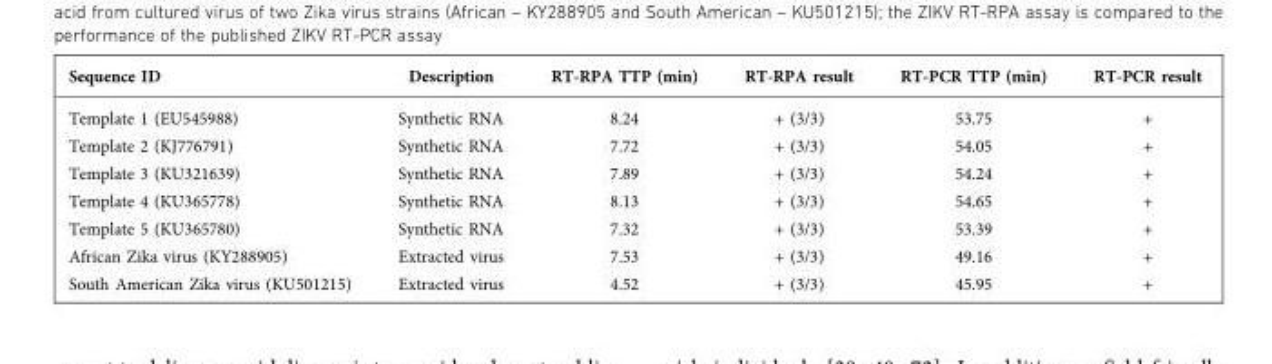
<table><thead><tr><td>Sequence ID</td><td>Description</td><td>RT-RPA TTP (min)</td><td>RT-RPA result</td><td>RT-PCR TTP (min)</td><td>RT-PCR result</td></tr></thead><tbody><tr><td>Template 1 (EU545988)</td><td>Synthetic RNA</td><td>8.24</td><td>+ (3/3)</td><td>53.75</td><td>+</td></tr><tr><td>Template 2 (KJ776791)</td><td>Synthetic RNA</td><td>7.72</td><td>+ (3/3)</td><td>54.05</td><td>+</td></tr><tr><td>Template 3 (KU321639)</td><td>Synthetic RNA</td><td>7.89</td><td>+ (3/3)</td><td>54.24</td><td>+</td></tr><tr><td>Template 4 (KU365778)</td><td>Synthetic RNA</td><td>8.13</td><td>+ (3/3)</td><td>54.65</td><td>+</td></tr><tr><td>Template 5 (KU365780)</td><td>Synthetic RNA</td><td>7.32</td><td>+ (3/3)</td><td>53.39</td><td>+</td></tr><tr><td>African Zika virus (KY288905)</td><td>Extracted virus</td><td>7.53</td><td>+ (3/3)</td><td>49.16</td><td>+</td></tr><tr><td>South American Zika virus (KU501215)</td><td>Extracted virus</td><td>4.52</td><td>+ (3/3)</td><td>45.95</td><td>+</td></tr></tbody></table>